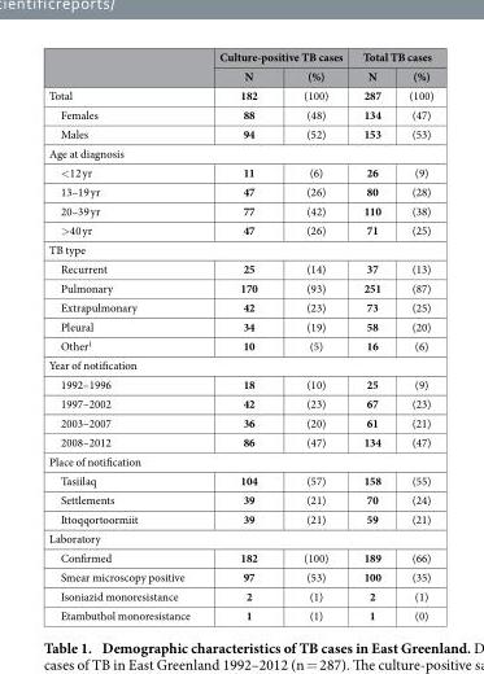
<table><thead><tr><td rowspan="2"></td><td colspan="2">Culture-positive TB cases</td><td colspan="2">Total TB cases</td></tr><tr><td>N</td><td>(%)</td><td>N</td><td>(%)</td></tr></thead><tbody><tr><td>Total</td><td>182</td><td>(100)</td><td>287</td><td>(100)</td></tr><tr><td>Females</td><td>88</td><td>(48)</td><td>134</td><td>(47)</td></tr><tr><td>Males</td><td>94</td><td>(52)</td><td>153</td><td>(53)</td></tr><tr><td colspan="5">Age at diagnosis</td></tr><tr><td>&lt; 12 yr</td><td>11</td><td>(6)</td><td>26</td><td>(9)</td></tr><tr><td>13–19 yr</td><td>47</td><td>(26)</td><td>80</td><td>(28)</td></tr><tr><td>20–39 yr</td><td>77</td><td>(42)</td><td>110</td><td>(38)</td></tr><tr><td>&gt; 40 yr</td><td>47</td><td>(26)</td><td>71</td><td>(25)</td></tr><tr><td colspan="5">TB type</td></tr><tr><td>Recurrent</td><td>25</td><td>(14)</td><td>37</td><td>(13)</td></tr><tr><td>Pulmonary</td><td>170</td><td>(93)</td><td>251</td><td>(87)</td></tr><tr><td>Extrapulmonary</td><td>42</td><td>(23)</td><td>73</td><td>(25)</td></tr><tr><td>Pleural</td><td>34</td><td>(19)</td><td>58</td><td>(20)</td></tr><tr><td>Other<sup>1</sup></td><td>10</td><td>(5)</td><td>16</td><td>(6)</td></tr><tr><td colspan="5">Year of notification</td></tr><tr><td>1992–1996</td><td>18</td><td>(10)</td><td>25</td><td>(9)</td></tr><tr><td>1997–2002</td><td>42</td><td>(23)</td><td>67</td><td>(23)</td></tr><tr><td>2003–2007</td><td>36</td><td>(20)</td><td>61</td><td>(21)</td></tr><tr><td>2008–2012</td><td>86</td><td>(47)</td><td>134</td><td>(47)</td></tr><tr><td colspan="5">Place of notification</td></tr><tr><td>Tasiilaq</td><td>104</td><td>(57)</td><td>158</td><td>(55)</td></tr><tr><td>Settlements</td><td>39</td><td>(21)</td><td>70</td><td>(24)</td></tr><tr><td>Ittoqqortoormiit</td><td>39</td><td>(21)</td><td>59</td><td>(21)</td></tr><tr><td colspan="5">Laboratory</td></tr><tr><td>Confirmed</td><td>182</td><td>(100)</td><td>189</td><td>(66)</td></tr><tr><td>Smear microscopy positive</td><td>97</td><td>(53)</td><td>100</td><td>(35)</td></tr><tr><td>Isoniazid monoresistance</td><td>2</td><td>(1)</td><td>2</td><td>(1)</td></tr><tr><td>Etambuthol monoresistance</td><td>1</td><td>(1)</td><td>1</td><td>(0)</td></tr></tbody></table>